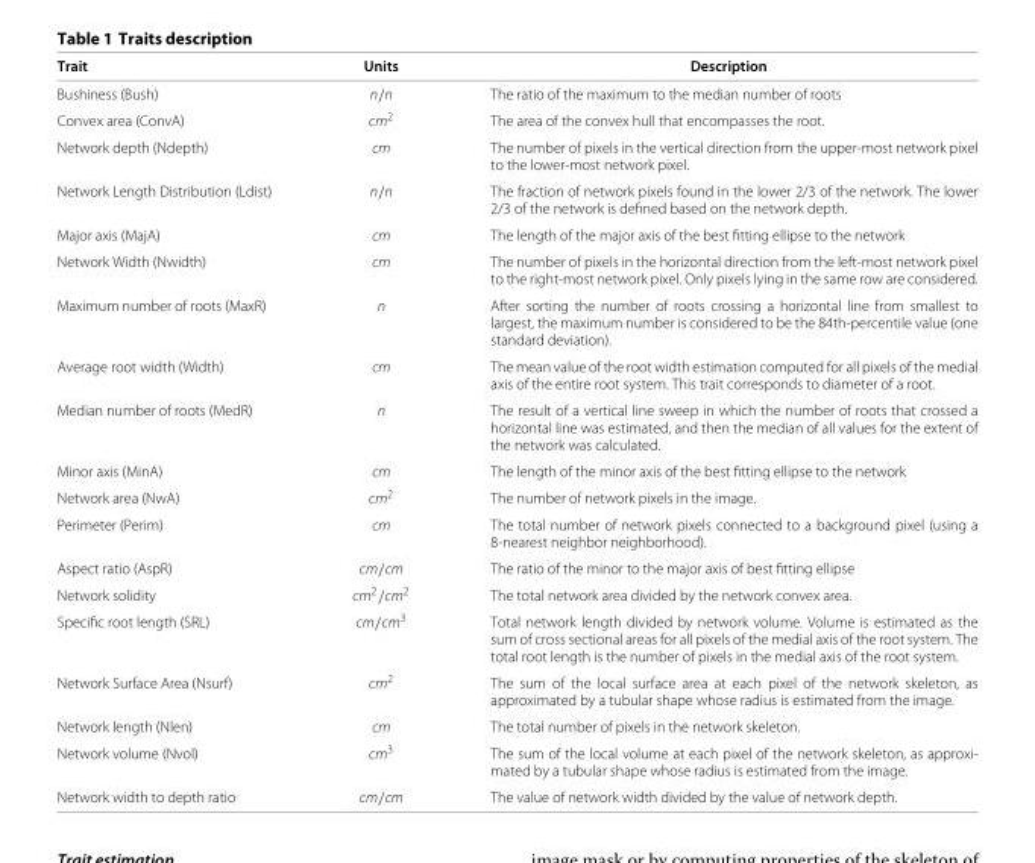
<table><thead><tr><td>Trait</td><td>Units</td><td>Description</td></tr></thead><tbody><tr><td>Bushiness (Bush)</td><td>n/n</td><td>The ratio of the maximum to the median number of roots</td></tr><tr><td>Convex area (ConvA)</td><td>cm<sup>2</sup></td><td>The area of the convex hull that encompasses the root.</td></tr><tr><td>Network depth (Ndepth)</td><td>cm</td><td>The number of pixels in the vertical direction from the upper-most network pixel to the lower-most network pixel.</td></tr><tr><td>Network Length Distribution (Ldist)</td><td>n/n</td><td>The fraction of network pixels found in the lower 2/3 of the network. The lower 2/3 of the network is defined based on the network depth.</td></tr><tr><td>Major axis (MajA)</td><td>cm</td><td>The length of the major axis of the best fitting ellipse to the network</td></tr><tr><td>Network Width (Nwidth)</td><td>cm</td><td>The number of pixels in the horizontal direction from the left-most network pixel to the right-most network pixel. Only pixels lying in the same row are considered.</td></tr><tr><td>Maximum number of roots (MaxR)</td><td>n</td><td>After sorting the number of roots crossing a horizontal line from smallest to largest, the maximum number is considered to be the 84th-percentile value (one standard deviation).</td></tr><tr><td>Average root width (Width)</td><td>cm</td><td>The mean value of the root width estimation computed for all pixels of the medial axis of the entire root system. This trait corresponds to diameter of a root.</td></tr><tr><td>Median number of roots (MedR)</td><td>n</td><td>The result of a vertical line sweep in which the number of roots that crossed a horizontal line was estimated, and then the median of all values for the extent of the network was calculated.</td></tr><tr><td>Minor axis (MinA)</td><td>cm</td><td>The length of the minor axis of the best fitting ellipse to the network</td></tr><tr><td>Network area (NwA)</td><td>cm<sup>2</sup></td><td>The number of network pixels in the image.</td></tr><tr><td>Perimeter (Perim)</td><td>cm</td><td>The total number of network pixels connected to a background pixel (using a 8-nearest neighbor neighborhood).</td></tr><tr><td>Aspect ratio (AspR)</td><td>cm/cm</td><td>The ratio of the minor to the major axis of best fitting ellipse</td></tr><tr><td>Network solidity</td><td>cm<sup>2</sup>/cm<sup>2</sup></td><td>The total network area divided by the network convex area.</td></tr><tr><td>Specific root length (SRL)</td><td>cm/cm<sup>3</sup></td><td>Total network length divided by network volume. Volume is estimated as the sum of cross sectional areas for all pixels of the medial axis of the root system. The total root length is the number of pixels in the medial axis of the root system.</td></tr><tr><td>Network Surface Area (Nsurf)</td><td>cm<sup>2</sup></td><td>The sum of the local surface area at each pixel of the network skeleton, as approximated by a tubular shape whose radius is estimated from the image.</td></tr><tr><td>Network length (Nlen)</td><td>cm</td><td>The total number of pixels in the network skeleton.</td></tr><tr><td>Network volume (Nvol)</td><td>cm<sup>3</sup></td><td>The sum of the local volume at each pixel of the network skeleton, as approxi- mated by a tubular shape whose radius is estimated from the image.</td></tr><tr><td>Network width to depth ratio</td><td>cm/cm</td><td>The value of network width divided by the value of network depth.</td></tr></tbody></table>